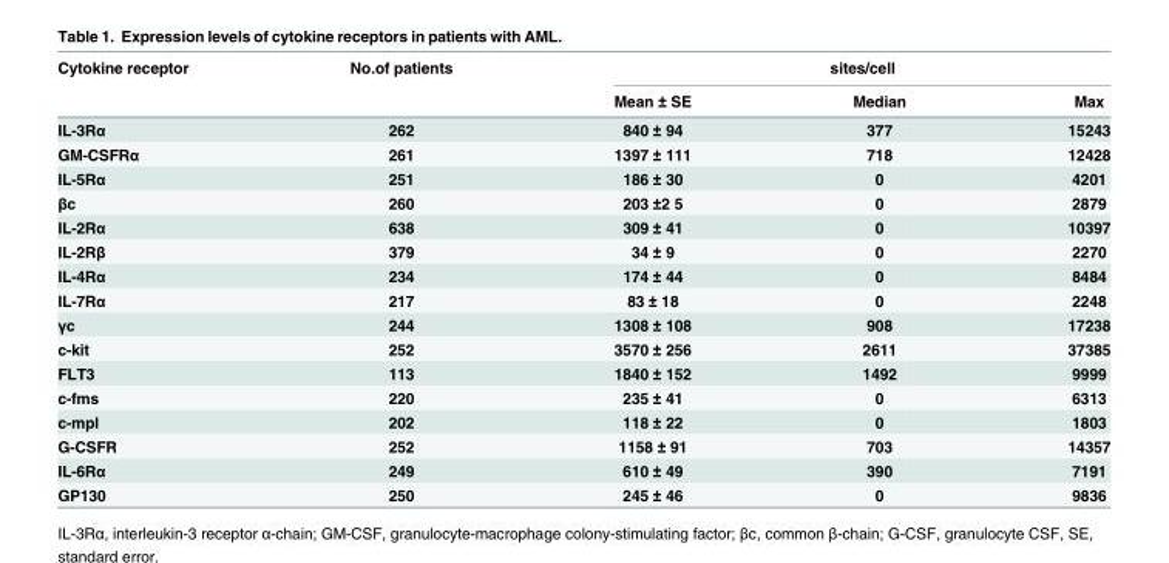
<table><thead><tr><td rowspan="2">Cytokine receptor</td><td rowspan="2">No.of patients</td><td colspan="3">sites/cell</td></tr><tr><td>Mean ± SE</td><td>Median</td><td>Max</td></tr></thead><tbody><tr><td>IL-3Rα</td><td>262</td><td>840 ± 94</td><td>377</td><td>15243</td></tr><tr><td>GM-CSFRα</td><td>261</td><td>1397 ± 111</td><td>718</td><td>12428</td></tr><tr><td>IL-5Rα</td><td>251</td><td>186 ± 30</td><td>0</td><td>4201</td></tr><tr><td>βc</td><td>260</td><td>203 ±2 5</td><td>0</td><td>2879</td></tr><tr><td>IL-2Rα</td><td>638</td><td>309 ± 41</td><td>0</td><td>10397</td></tr><tr><td>IL-2Rβ</td><td>379</td><td>34 ± 9</td><td>0</td><td>2270</td></tr><tr><td>IL-4Rα</td><td>234</td><td>174 ± 44</td><td>0</td><td>8484</td></tr><tr><td>IL-7Rα</td><td>217</td><td>83 ± 18</td><td>0</td><td>2248</td></tr><tr><td>γc</td><td>244</td><td>1308 ± 108</td><td>908</td><td>17238</td></tr><tr><td>c-kit</td><td>252</td><td>3570 ± 256</td><td>2611</td><td>37385</td></tr><tr><td>FLT3</td><td>113</td><td>1840 ± 152</td><td>1492</td><td>9999</td></tr><tr><td>c-fms</td><td>220</td><td>235 ± 41</td><td>0</td><td>6313</td></tr><tr><td>c-mpl</td><td>202</td><td>118 ± 22</td><td>0</td><td>1803</td></tr><tr><td>G-CSFR</td><td>252</td><td>1158 ± 91</td><td>703</td><td>14357</td></tr><tr><td>IL-6Rα</td><td>249</td><td>610 ± 49</td><td>390</td><td>7191</td></tr><tr><td>GP130</td><td>250</td><td>245 ± 46</td><td>0</td><td>9836</td></tr></tbody></table>